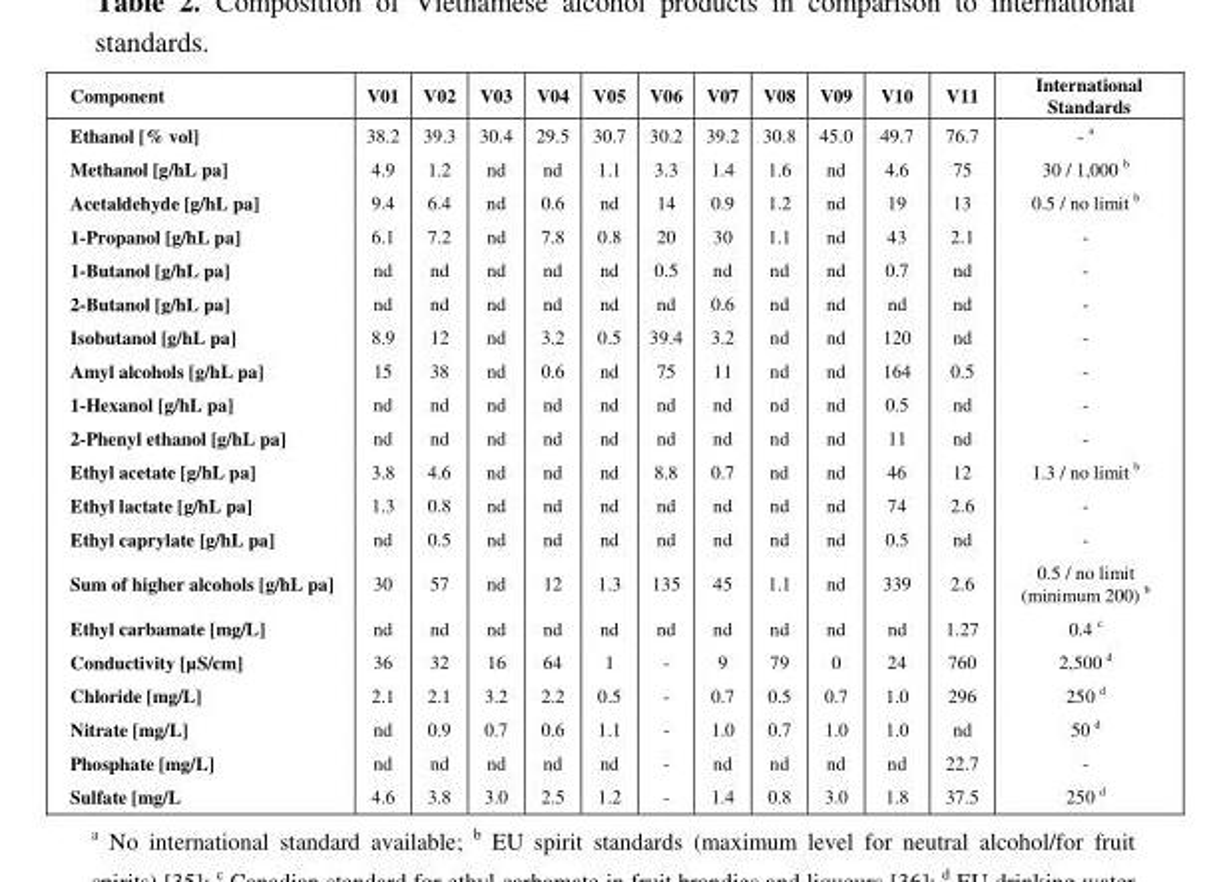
<table><thead><tr><td>Component</td><td>V01</td><td>V02</td><td>V03</td><td>V04</td><td>V05</td><td>V06</td><td>V07</td><td>V08</td><td>V09</td><td>V10</td><td>V11</td><td>International Standards</td></tr></thead><tbody><tr><td>Ethanol [% vol]</td><td>38.2</td><td>39.3</td><td>30.4</td><td>29.5</td><td>30.7</td><td>30.2</td><td>39.2</td><td>30.8</td><td>45.0</td><td>49.7</td><td>76.7</td><td>- a</td></tr><tr><td>Methanol [g/hL pa]</td><td>4.9</td><td>1.2</td><td>nd</td><td>nd</td><td>1.1</td><td>3.3</td><td>1.4</td><td>1.6</td><td>nd</td><td>4.6</td><td>75</td><td>30 / 1,000 b</td></tr><tr><td>Acetaldehyde [g/hL pa]</td><td>9.4</td><td>6.4</td><td>nd</td><td>0.6</td><td>nd</td><td>14</td><td>0.9</td><td>1.2</td><td>nd</td><td>19</td><td>13</td><td>0.5 / no limit b</td></tr><tr><td>1-Propanol [g/hL pa]</td><td>6.1</td><td>7.2</td><td>nd</td><td>7.8</td><td>0.8</td><td>20</td><td>30</td><td>1.1</td><td>nd</td><td>43</td><td>2.1</td><td>-</td></tr><tr><td>1-Butanol [g/hL pa]</td><td>nd</td><td>nd</td><td>nd</td><td>nd</td><td>nd</td><td>0.5</td><td>nd</td><td>nd</td><td>nd</td><td>0.7</td><td>nd</td><td>-</td></tr><tr><td>2-Butanol [g/hL pa]</td><td>nd</td><td>nd</td><td>nd</td><td>nd</td><td>nd</td><td>nd</td><td>0.6</td><td>nd</td><td>nd</td><td>nd</td><td>nd</td><td>-</td></tr><tr><td>Isobutanol [g/hL pa]</td><td>8.9</td><td>12</td><td>nd</td><td>3.2</td><td>0.5</td><td>39.4</td><td>3.2</td><td>nd</td><td>nd</td><td>120</td><td>nd</td><td>-</td></tr><tr><td>Amyl alcohols [g/hL pa]</td><td>15</td><td>38</td><td>nd</td><td>0.6</td><td>nd</td><td>75</td><td>11</td><td>nd</td><td>nd</td><td>164</td><td>0.5</td><td>-</td></tr><tr><td>1-Hexanol [g/hL pa]</td><td>nd</td><td>nd</td><td>nd</td><td>nd</td><td>nd</td><td>nd</td><td>nd</td><td>nd</td><td>nd</td><td>0.5</td><td>nd</td><td>-</td></tr><tr><td>2-Phenyl ethanol [g/hL pa]</td><td>nd</td><td>nd</td><td>nd</td><td>nd</td><td>nd</td><td>nd</td><td>nd</td><td>nd</td><td>nd</td><td>11</td><td>nd</td><td>-</td></tr><tr><td>Ethyl acetate [g/hL pa]</td><td>3.8</td><td>4.6</td><td>nd</td><td>nd</td><td>nd</td><td>8.8</td><td>0.7</td><td>nd</td><td>nd</td><td>46</td><td>12</td><td>1.3 / no limit b</td></tr><tr><td>Ethyl lactate [g/hL pa]</td><td>1.3</td><td>0.8</td><td>nd</td><td>nd</td><td>nd</td><td>nd</td><td>nd</td><td>nd</td><td>nd</td><td>74</td><td>2.6</td><td>-</td></tr><tr><td>Ethyl caprylate [g/hL pa]</td><td>nd</td><td>0.5</td><td>nd</td><td>nd</td><td>nd</td><td>nd</td><td>nd</td><td>nd</td><td>nd</td><td>0.5</td><td>nd</td><td>-</td></tr><tr><td>Sum of higher alcohols [g/hL pa]</td><td>30</td><td>57</td><td>nd</td><td>12</td><td>1.3</td><td>135</td><td>45</td><td>1.1</td><td>nd</td><td>339</td><td>2.6</td><td>0.5 / no limit (minimum 200) b</td></tr><tr><td>Ethyl carbamate [mg/L]</td><td>nd</td><td>nd</td><td>nd</td><td>nd</td><td>nd</td><td>nd</td><td>nd</td><td>nd</td><td>nd</td><td>nd</td><td>1.27</td><td>0.4 c</td></tr><tr><td>Conductivity [µS/cm]</td><td>36</td><td>32</td><td>16</td><td>64</td><td>1</td><td>-</td><td>9</td><td>79</td><td>0</td><td>24</td><td>760</td><td>2,500 d</td></tr><tr><td>Chloride [mg/L]</td><td>2.1</td><td>2.1</td><td>3.2</td><td>2.2</td><td>0.5</td><td>-</td><td>0.7</td><td>0.5</td><td>0.7</td><td>1.0</td><td>296</td><td>250 d</td></tr><tr><td>Nitrate [mg/L]</td><td>nd</td><td>0.9</td><td>0.7</td><td>0.6</td><td>1.1</td><td>-</td><td>1.0</td><td>0.7</td><td>1.0</td><td>1.0</td><td>nd</td><td>50 d</td></tr><tr><td>Phosphate [mg/L]</td><td>nd</td><td>nd</td><td>nd</td><td>nd</td><td>nd</td><td>-</td><td>nd</td><td>nd</td><td>nd</td><td>nd</td><td>22.7</td><td>-</td></tr><tr><td>Sulfate [mg/L</td><td>4.6</td><td>3.8</td><td>3.0</td><td>2.5</td><td>1.2</td><td>-</td><td>1.4</td><td>0.8</td><td>3.0</td><td>1.8</td><td>37.5</td><td>250 d</td></tr></tbody></table>